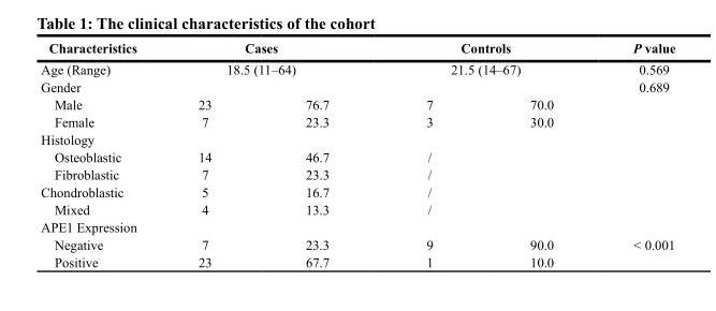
<table><thead><tr><td rowspan="3">Characteristics Age (Range) Gender</td><td rowspan="2" colspan="2">Cases 18.5 (11–64)</td><td rowspan="2" colspan="2">Controls 21.5 (14–67)</td><td rowspan="3">P value 0.569 0.689</td></tr><tr></tr><tr><td></td><td></td><td></td><td></td></tr></thead><tbody><tr><td>Male</td><td>23</td><td>76.7</td><td>7</td><td>70.0</td><td></td></tr><tr><td>Female</td><td>7</td><td>23.3</td><td>3</td><td>30.0</td><td></td></tr><tr><td colspan="6">Histology</td></tr><tr><td>Osteoblastic</td><td>14</td><td>46.7</td><td>/</td><td></td><td></td></tr><tr><td>Fibroblastic</td><td>7</td><td>23.3</td><td>/</td><td></td><td></td></tr><tr><td>Chondroblastic</td><td>5</td><td>16.7</td><td>/</td><td></td><td></td></tr><tr><td>Mixed</td><td>4</td><td>13.3</td><td>/</td><td></td><td></td></tr><tr><td colspan="6">APE1 Expression</td></tr><tr><td>Negative</td><td>7</td><td>23.3</td><td>9</td><td>90.0</td><td>&lt; 0.001</td></tr><tr><td>Positive</td><td>23</td><td>67.7</td><td>1</td><td>10.0</td><td></td></tr></tbody></table>